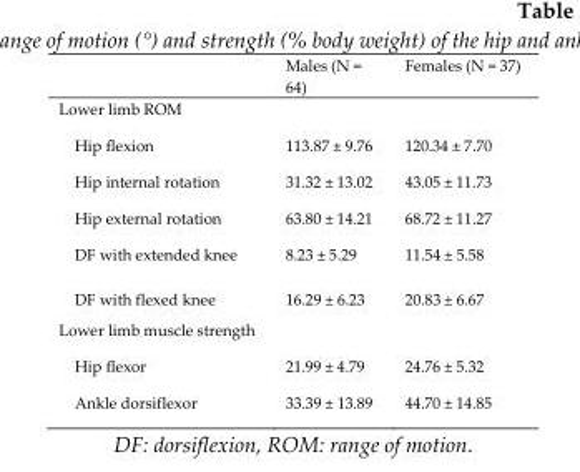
<table><thead><tr><td></td><td>Males (N = 64)</td><td>Females (N = 37)</td></tr></thead><tbody><tr><td colspan="3">Lower limb ROM</td></tr><tr><td>Hip flexion</td><td>113.87 ± 9.76</td><td>120.34 ± 7.70</td></tr><tr><td>Hip internal rotation</td><td>31.32 ± 13.02</td><td>43.05 ± 11.73</td></tr><tr><td>Hip external rotation</td><td>63.80 ± 14.21</td><td>68.72 ± 11.27</td></tr><tr><td>DF with extended knee</td><td>8.23 ± 5.29</td><td>11.54 ± 5.58</td></tr><tr><td>DF with flexed knee</td><td>16.29 ± 6.23</td><td>20.83 ± 6.67</td></tr><tr><td colspan="3">Lower limb muscle strength</td></tr><tr><td>Hip flexor</td><td>21.99 ± 4.79</td><td>24.76 ± 5.32</td></tr><tr><td>Ankle dorsiflexor</td><td>33.39 ± 13.89</td><td>44.70 ± 14.85</td></tr></tbody></table>